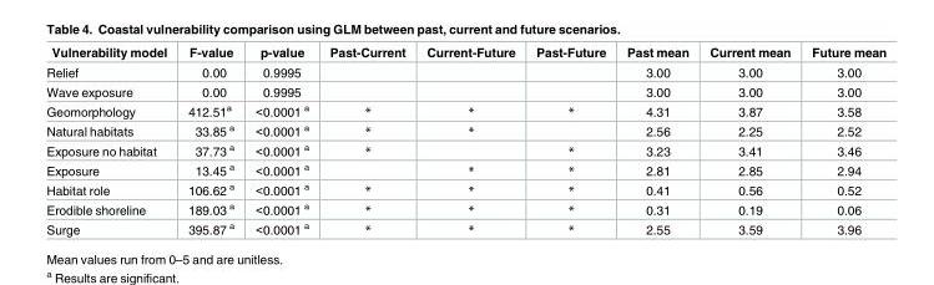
<table><thead><tr><td>Vulnerability model</td><td>F-value</td><td>p-value</td><td>Past-Current</td><td>Current-Future</td><td>Past-Future</td><td>Past mean</td><td>Current mean</td><td>Future mean</td></tr></thead><tbody><tr><td>Relief</td><td>0.00</td><td>0.9995</td><td></td><td></td><td></td><td>3.00</td><td>3.00</td><td>3.00</td></tr><tr><td>Wave exposure</td><td>0.00</td><td>0.9995</td><td></td><td></td><td></td><td>3.00</td><td>3.00</td><td>3.00</td></tr><tr><td>Geomorphology</td><td>412.51<sup>a</sup></td><td>&lt;0.0001 <sup>a</sup></td><td>*</td><td>*</td><td>*</td><td>4.31</td><td>3.87</td><td>3.58</td></tr><tr><td>Natural habitats</td><td>33.85 <sup>a</sup></td><td>&lt;0.0001 <sup>a</sup></td><td>*</td><td>*</td><td></td><td>2.56</td><td>2.25</td><td>2.52</td></tr><tr><td>Exposure no habitat</td><td>37.73 <sup>a</sup></td><td>&lt;0.0001 <sup>a</sup></td><td>*</td><td></td><td>*</td><td>3.23</td><td>3.41</td><td>3.46</td></tr><tr><td>Exposure</td><td>13.45 <sup>a</sup></td><td>&lt;0.0001 <sup>a</sup></td><td></td><td>*</td><td>*</td><td>2.81</td><td>2.85</td><td>2.94</td></tr><tr><td>Habitat role</td><td>106.62 <sup>a</sup></td><td>&lt;0.0001 <sup>a</sup></td><td>*</td><td>*</td><td>*</td><td>0.41</td><td>0.56</td><td>0.52</td></tr><tr><td>Erodible shoreline</td><td>189.03 <sup>a</sup></td><td>&lt;0.0001 <sup>a</sup></td><td>*</td><td>*</td><td>*</td><td>0.31</td><td>0.19</td><td>0.06</td></tr><tr><td>Surge</td><td>395.87 <sup>a</sup></td><td>&lt;0.0001 <sup>a</sup></td><td>*</td><td>*</td><td>*</td><td>2.55</td><td>3.59</td><td>3.96</td></tr></tbody></table>